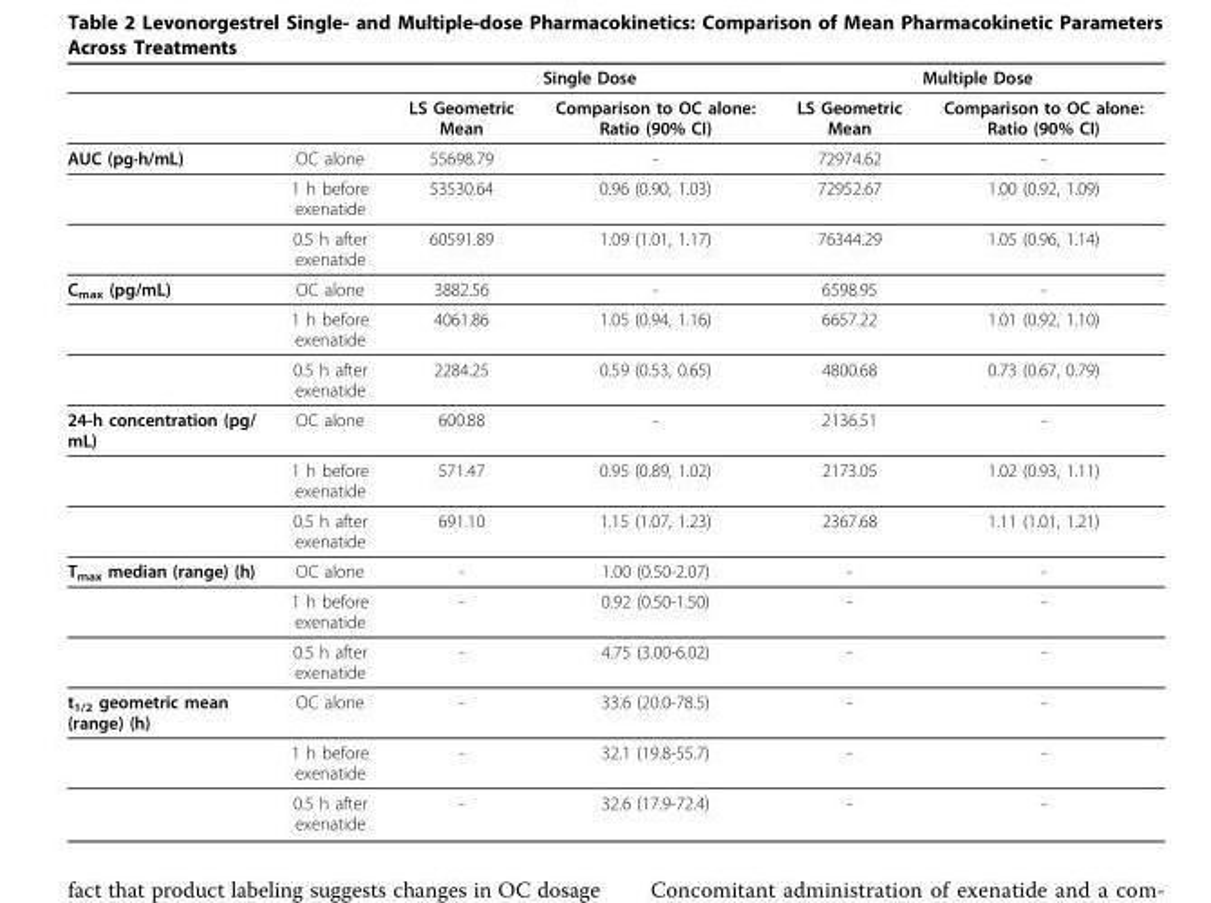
<table><thead><tr><td rowspan="2"></td><td rowspan="2"></td><td colspan="2">Single Dose</td><td colspan="2">Multiple Dose</td></tr><tr><td>LS Geometric Mean</td><td>Comparison to OC alone: Ratio (90% CI)</td><td>LS Geometric Mean</td><td>Comparison to OC alone: Ratio (90% CI)</td></tr></thead><tbody><tr><td rowspan="3">AUC (pg·h/mL)</td><td>OC alone</td><td>55698.79</td><td>-</td><td>72974.62</td><td>-</td></tr><tr><td>1 h before exenatide</td><td>53530.64</td><td>0.96 (0.90, 1.03)</td><td>72952.67</td><td>1.00 (0.92, 1.09)</td></tr><tr><td>0.5 h after exenatide</td><td>60591.89</td><td>1.09 (1.01, 1.17)</td><td>76344.29</td><td>1.05 (0.96, 1.14)</td></tr><tr><td rowspan="3">Cmax (pg/mL)</td><td>OC alone</td><td>3882.56</td><td>-</td><td>6598.95</td><td>-</td></tr><tr><td>1 h before exenatide</td><td>4061.86</td><td>1.05 (0.94, 1.16)</td><td>6657.22</td><td>1.01 (0.92, 1.10)</td></tr><tr><td>0.5 h after exenatide</td><td>2284.25</td><td>0.59 (0.53, 0.65)</td><td>4800.68</td><td>0.73 (0.67, 0.79)</td></tr><tr><td rowspan="3">24-h concentration (pg/ mL)</td><td>OC alone</td><td>600.88</td><td>-</td><td>2136.51</td><td>-</td></tr><tr><td>1 h before exenatide</td><td>571.47</td><td>0.95 (0.89, 1.02)</td><td>2173.05</td><td>1.02 (0.93, 1.11)</td></tr><tr><td>0.5 h after exenatide</td><td>691.10</td><td>1.15 (1.07, 1.23)</td><td>2367.68</td><td>1.11 (1.01, 1.21)</td></tr><tr><td rowspan="3">Tmax median (range) (h)</td><td>OC alone</td><td>-</td><td>1.00 (0.50-2.07)</td><td>-</td><td>-</td></tr><tr><td>1 h before exenatide</td><td>-</td><td>0.92 (0.50-1.50)</td><td>-</td><td>-</td></tr><tr><td>0.5 h after exenatide</td><td>-</td><td>4.75 (3.00-6.02)</td><td>-</td><td>-</td></tr><tr><td rowspan="3">t1/2 geometric mean (range) (h)</td><td>OC alone</td><td>-</td><td>33.6 (20.0-78.5)</td><td>-</td><td>-</td></tr><tr><td>1 h before exenatide</td><td>-</td><td>32.1 (19.8-55.7)</td><td>-</td><td>-</td></tr><tr><td>0.5 h after exenatide</td><td>-</td><td>32.6 (17.9-72.4)</td><td>-</td><td>-</td></tr></tbody></table>